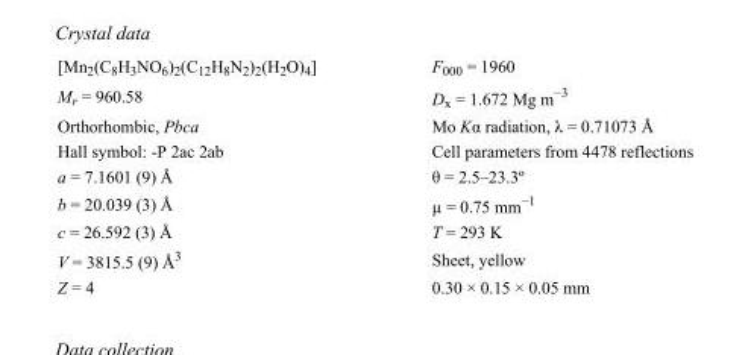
<table><tbody><tr><td>[Mn<sub>2</sub>(C<sub>8</sub>H<sub>3</sub>NO<sub>6</sub>)<sub>2</sub>(C<sub>12</sub>H<sub>8</sub>N<sub>2</sub>)<sub>2</sub>(H<sub>2</sub>O)<sub>4</sub>]</td><td>F000 = 1960</td></tr><tr><td>M<sub>r</sub> = 960.58</td><td>D<sub>x</sub> = 1.672 Mg m<sup>−3</sup></td></tr><tr><td>Orthorhombic, Pbca</td><td>Mo Kα radiation, λ = 0.71073 Å</td></tr><tr><td>Hall symbol: -P 2ac 2ab</td><td>Cell parameters from 4478 reflections</td></tr><tr><td>a = 7.1601 (9) Å</td><td>θ = 2.5–23.3º</td></tr><tr><td>b = 20.039 (3) Å</td><td>µ = 0.75 mm<sup>−1</sup></td></tr><tr><td>c = 26.592 (3) Å</td><td>T = 293 K</td></tr><tr><td>V = 3815.5 (9) Å<sup>3</sup></td><td>Sheet, yellow</td></tr><tr><td>Z = 4</td><td>0.30 × 0.15 × 0.05 mm</td></tr></tbody></table>